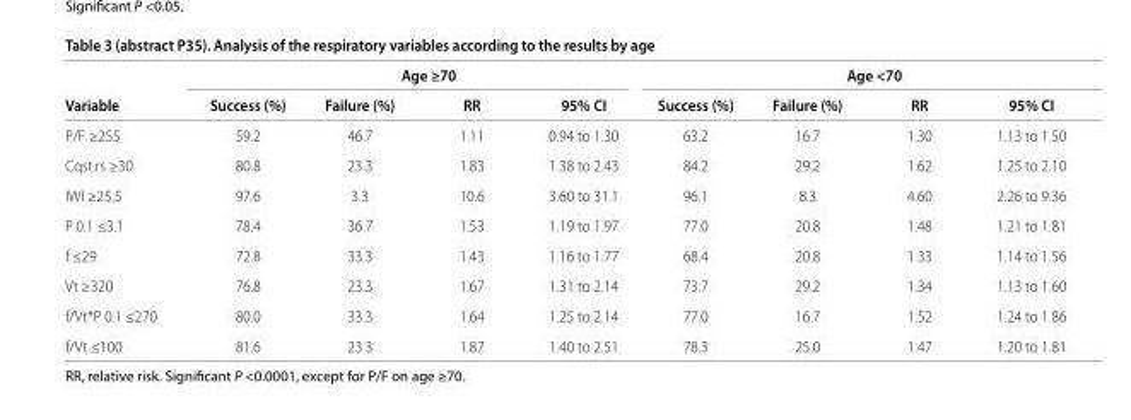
<table><thead><tr><td rowspan="2">Variable</td><td colspan="4">Age ≥70</td><td colspan="4">Age &lt;70</td></tr><tr><td>Success (%)</td><td>Failure (%)</td><td>RR</td><td>95% CI</td><td>Success (%)</td><td>Failure (%)</td><td>RR</td><td>95% CI</td></tr></thead><tbody><tr><td>P/F ≥255</td><td>59.2</td><td>46.7</td><td>1.11</td><td>0.94 to 1.30</td><td>63.2</td><td>16.7</td><td>1.30</td><td>1.13 to 1.50</td></tr><tr><td>Cqst.rs ≥30</td><td>80.8</td><td>23.3</td><td>1.83</td><td>1.38 to 2.43</td><td>84.2</td><td>29.2</td><td>1.62</td><td>1.25 to 2.10</td></tr><tr><td>IWI ≥25.5</td><td>97.6</td><td>3.3</td><td>10.6</td><td>3.60 to 31.1</td><td>96.1</td><td>8.3</td><td>4.60</td><td>2.26 to 9.36</td></tr><tr><td>P 0.1 ≤3.1</td><td>78.4</td><td>36.7</td><td>1.53</td><td>1.19 to 1.97</td><td>77.0</td><td>20.8</td><td>1.48</td><td>1.21 to 1.81</td></tr><tr><td>f ≤29</td><td>72.8</td><td>33.3</td><td>1.43</td><td>1.16 to 1.77</td><td>68.4</td><td>20.8</td><td>1.33</td><td>1.14 to 1.56</td></tr><tr><td>Vt ≥320</td><td>76.8</td><td>23.3</td><td>1.67</td><td>1.31 to 2.14</td><td>73.7</td><td>29.2</td><td>1.34</td><td>1.13 to 1.60</td></tr><tr><td>f/Vt*P 0.1 ≤270</td><td>80.0</td><td>33.3</td><td>1.64</td><td>1.25 to 2.14</td><td>77.0</td><td>16.7</td><td>1.52</td><td>1.24 to 1.86</td></tr><tr><td>f/Vt ≤100</td><td>81.6</td><td>23.3</td><td>1.87</td><td>1.40 to 2.51</td><td>78.3</td><td>25.0</td><td>1.47</td><td>1.20 to 1.81</td></tr></tbody></table>